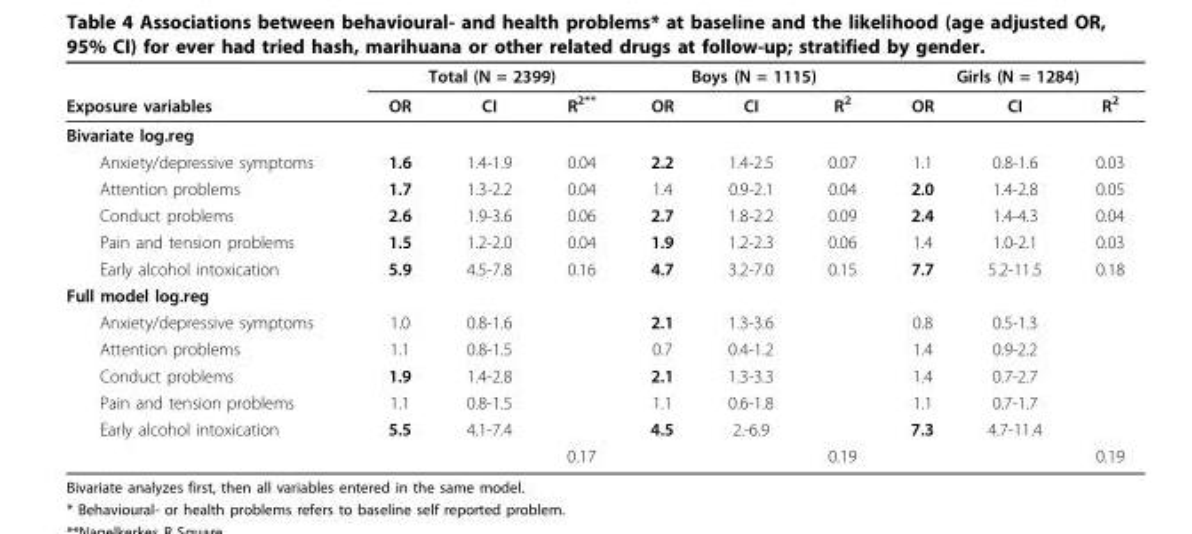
<table><thead><tr><td rowspan="2">Exposure variables</td><td colspan="3">Total (N = 2399)</td><td colspan="3">Boys (N = 1115)</td><td colspan="3">Girls (N = 1284)</td></tr><tr><td>OR</td><td>CI</td><td>R<sup>2**</sup></td><td>OR</td><td>CI</td><td>R<sup>2</sup></td><td>OR</td><td>CI</td><td>R<sup>2</sup></td></tr></thead><tbody><tr><td colspan="10">Bivariate log.reg</td></tr><tr><td>Anxiety/depressive symptoms</td><td>1.6</td><td>1.4-1.9</td><td>0.04</td><td>2.2</td><td>1.4-2.5</td><td>0.07</td><td>1.1</td><td>0.8-1.6</td><td>0.03</td></tr><tr><td>Attention problems</td><td>1.7</td><td>1.3-2.2</td><td>0.04</td><td>1.4</td><td>0.9-2.1</td><td>0.04</td><td>2.0</td><td>1.4-2.8</td><td>0.05</td></tr><tr><td>Conduct problems</td><td>2.6</td><td>1.9-3.6</td><td>0.06</td><td>2.7</td><td>1.8-2.2</td><td>0.09</td><td>2.4</td><td>1.4-4.3</td><td>0.04</td></tr><tr><td>Pain and tension problems</td><td>1.5</td><td>1.2-2.0</td><td>0.04</td><td>1.9</td><td>1.2-2.3</td><td>0.06</td><td>1.4</td><td>1.0-2.1</td><td>0.03</td></tr><tr><td>Early alcohol intoxication</td><td>5.9</td><td>4.5-7.8</td><td>0.16</td><td>4.7</td><td>3.2-7.0</td><td>0.15</td><td>7.7</td><td>5.2-11.5</td><td>0.18</td></tr><tr><td colspan="10">Full model log.reg</td></tr><tr><td>Anxiety/depressive symptoms</td><td>1.0</td><td>0.8-1.6</td><td></td><td>2.1</td><td>1.3-3.6</td><td></td><td>0.8</td><td>0.5-1.3</td><td></td></tr><tr><td>Attention problems</td><td>1.1</td><td>0.8-1.5</td><td></td><td>0.7</td><td>0.4-1.2</td><td></td><td>1.4</td><td>0.9-2.2</td><td></td></tr><tr><td>Conduct problems</td><td>1.9</td><td>1.4-2.8</td><td></td><td>2.1</td><td>1.3-3.3</td><td></td><td>1.4</td><td>0.7-2.7</td><td></td></tr><tr><td>Pain and tension problems</td><td>1.1</td><td>0.8-1.5</td><td></td><td>1.1</td><td>0.6-1.8</td><td></td><td>1.1</td><td>0.7-1.7</td><td></td></tr><tr><td rowspan="2">Early alcohol intoxication</td><td>5.5</td><td>4.1-7.4</td><td></td><td>4.5</td><td>2.-6.9</td><td></td><td>7.3</td><td>4.7-11.4</td><td></td></tr><tr><td></td><td></td><td>0.17</td><td></td><td></td><td>0.19</td><td></td><td></td><td>0.19</td></tr></tbody></table>